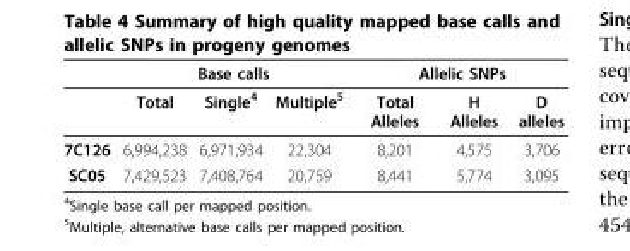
<table><thead><tr><td rowspan="2"></td><td colspan="3">Base calls</td><td colspan="3">Allelic SNPs</td></tr><tr><td>Total</td><td>Single<sup>4</sup></td><td>Multiple<sup>5</sup></td><td>Total Alleles</td><td>H Alleles</td><td>D alleles</td></tr></thead><tbody><tr><td>7C126</td><td>6,994,238</td><td>6,971,934</td><td>22,304</td><td>8,201</td><td>4,575</td><td>3,706</td></tr><tr><td>SC05</td><td>7,429,523</td><td>7,408,764</td><td>20,759</td><td>8,441</td><td>5,774</td><td>3,095</td></tr></tbody></table>